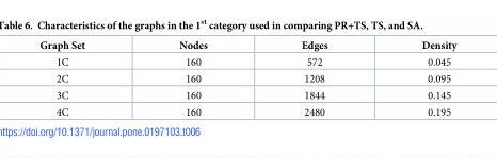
<table><thead><tr><td>Graph Set</td><td>Nodes</td><td>Edges</td><td>Density</td></tr></thead><tbody><tr><td>1C</td><td>160</td><td>572</td><td>0.045</td></tr><tr><td>2C</td><td>160</td><td>1208</td><td>0.095</td></tr><tr><td>3C</td><td>160</td><td>1844</td><td>0.145</td></tr><tr><td>4C</td><td>160</td><td>2480</td><td>0.195</td></tr></tbody></table>